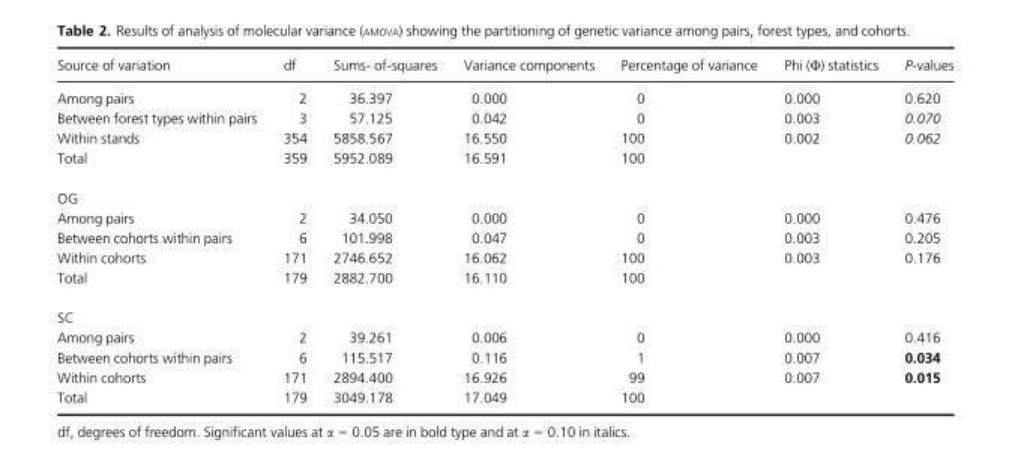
<table><thead><tr><td>Source of variation</td><td>df</td><td>Sums- of-squares</td><td>Variance components</td><td>Percentage of variance</td><td>Phi (Φ) statistics</td><td>P-values</td></tr></thead><tbody><tr><td>Among pairs</td><td>2</td><td>36.397</td><td>0.000</td><td>0</td><td>0.000</td><td>0.620</td></tr><tr><td>Between forest types within pairs</td><td>3</td><td>57.125</td><td>0.042</td><td>0</td><td>0.003</td><td>0.070</td></tr><tr><td>Within stands</td><td>354</td><td>5858.567</td><td>16.550</td><td>100</td><td>0.002</td><td>0.062</td></tr><tr><td>Total</td><td>359</td><td>5952.089</td><td>16.591</td><td>100</td><td></td><td></td></tr><tr><td colspan="7">OG</td></tr><tr><td>Among pairs</td><td>2</td><td>34.050</td><td>0.000</td><td>0</td><td>0.000</td><td>0.476</td></tr><tr><td>Between cohorts within pairs</td><td>6</td><td>101.998</td><td>0.047</td><td>0</td><td>0.003</td><td>0.205</td></tr><tr><td>Within cohorts</td><td>171</td><td>2746.652</td><td>16.062</td><td>100</td><td>0.003</td><td>0.176</td></tr><tr><td>Total</td><td>179</td><td>2882.700</td><td>16.110</td><td>100</td><td></td><td></td></tr><tr><td colspan="7">SC</td></tr><tr><td>Among pairs</td><td>2</td><td>39.261</td><td>0.006</td><td>0</td><td>0.000</td><td>0.416</td></tr><tr><td>Between cohorts within pairs</td><td>6</td><td>115.517</td><td>0.116</td><td>1</td><td>0.007</td><td>0.034</td></tr><tr><td>Within cohorts</td><td>171</td><td>2894.400</td><td>16.926</td><td>99</td><td>0.007</td><td>0.015</td></tr><tr><td>Total</td><td>179</td><td>3049.178</td><td>17.049</td><td>100</td><td></td><td></td></tr></tbody></table>